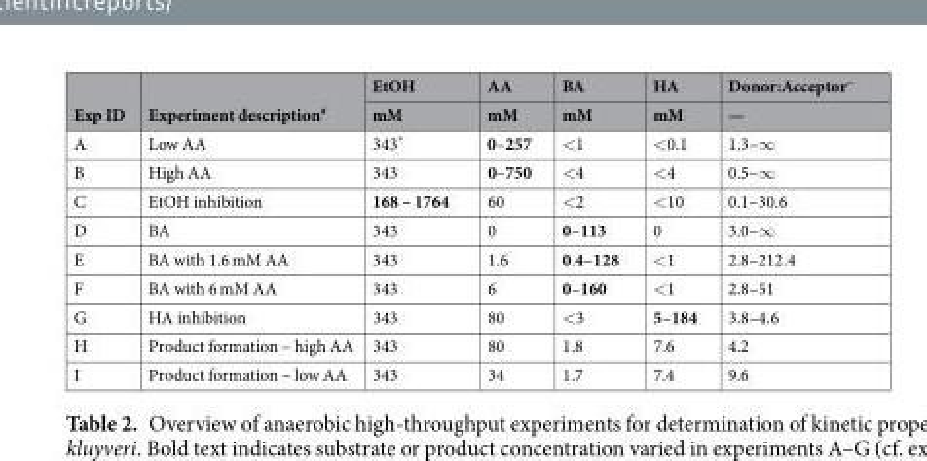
<table><thead><tr><td rowspan="2">Exp ID</td><td rowspan="2">Experiment description<sup>#</sup></td><td rowspan="2">EtOH mM</td><td rowspan="2">AA mM</td><td rowspan="2">BA mM</td><td rowspan="2">HA mM</td><td rowspan="2">Donor:Acceptor<sup>~</sup> —</td></tr><tr></tr></thead><tbody><tr><td>A</td><td>Low AA</td><td>343*</td><td>0–257</td><td>&lt;1</td><td>&lt;0.1</td><td>1.3–∞</td></tr><tr><td>B</td><td>High AA</td><td>343</td><td>0–750</td><td>&lt;4</td><td>&lt;4</td><td>0.5–∞</td></tr><tr><td>C</td><td>EtOH inhibition</td><td>168 – 1764</td><td>60</td><td>&lt;2</td><td>&lt;10</td><td>0.1–30.6</td></tr><tr><td>D</td><td>BA</td><td>343</td><td>0</td><td>0–113</td><td>0</td><td>3.0–∞</td></tr><tr><td>E</td><td>BA with 1.6 mM AA</td><td>343</td><td>1.6</td><td>0.4–128</td><td>&lt;1</td><td>2.8–212.4</td></tr><tr><td>F</td><td>BA with 6 mM AA</td><td>343</td><td>6</td><td>0–160</td><td>&lt;1</td><td>2.8–51</td></tr><tr><td>G</td><td>HA inhibition</td><td>343</td><td>80</td><td>&lt;3</td><td>5–184</td><td>3.8–4.6</td></tr><tr><td>H</td><td>Product formation – high AA</td><td>343</td><td>80</td><td>1.8</td><td>7.6</td><td>4.2</td></tr><tr><td>I</td><td>Product formation – low AA</td><td>343</td><td>34</td><td>1.7</td><td>7.4</td><td>9.6</td></tr></tbody></table>